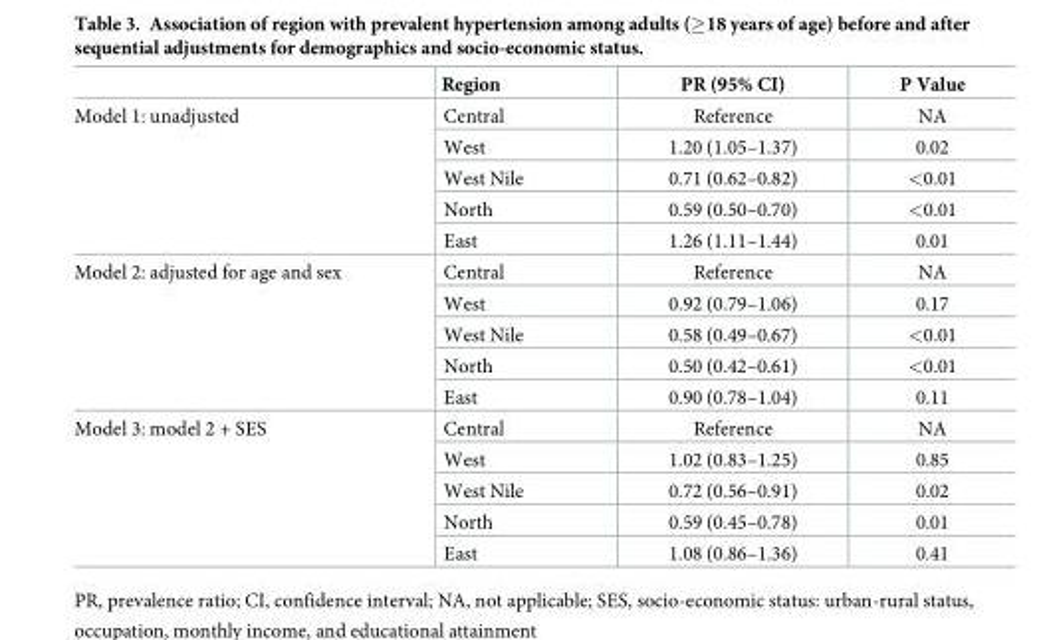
<table><thead><tr><td></td><td>Region</td><td>PR (95% CI)</td><td>P Value</td></tr></thead><tbody><tr><td rowspan="5">Model 1: unadjusted</td><td>Central</td><td>Reference</td><td>NA</td></tr><tr><td>West</td><td>1.20 (1.05–1.37)</td><td>0.02</td></tr><tr><td>West Nile</td><td>0.71 (0.62–0.82)</td><td>&lt;0.01</td></tr><tr><td>North</td><td>0.59 (0.50–0.70)</td><td>&lt;0.01</td></tr><tr><td>East</td><td>1.26 (1.11–1.44)</td><td>0.01</td></tr><tr><td rowspan="5">Model 2: adjusted for age and sex</td><td>Central</td><td>Reference</td><td>NA</td></tr><tr><td>West</td><td>0.92 (0.79–1.06)</td><td>0.17</td></tr><tr><td>West Nile</td><td>0.58 (0.49–0.67)</td><td>&lt;0.01</td></tr><tr><td>North</td><td>0.50 (0.42–0.61)</td><td>&lt;0.01</td></tr><tr><td>East</td><td>0.90 (0.78–1.04)</td><td>0.11</td></tr><tr><td rowspan="5">Model 3: model 2 + SES</td><td>Central</td><td>Reference</td><td>NA</td></tr><tr><td>West</td><td>1.02 (0.83–1.25)</td><td>0.85</td></tr><tr><td>West Nile</td><td>0.72 (0.56–0.91)</td><td>0.02</td></tr><tr><td>North</td><td>0.59 (0.45–0.78)</td><td>0.01</td></tr><tr><td>East</td><td>1.08 (0.86–1.36)</td><td>0.41</td></tr></tbody></table>